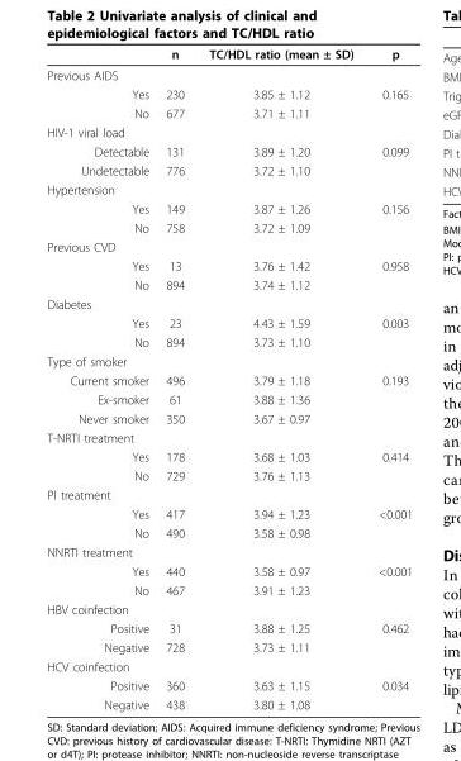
<table><thead><tr><td></td><td>n</td><td>TC/HDL ratio (mean ± SD)</td><td>p</td></tr></thead><tbody><tr><td colspan="4">Previous AIDS</td></tr><tr><td>Yes</td><td>230</td><td>3.85 ± 1.12</td><td>0.165</td></tr><tr><td>No</td><td>677</td><td>3.71 ± 1.11</td><td></td></tr><tr><td colspan="4">HIV-1 viral load</td></tr><tr><td>Detectable</td><td>131</td><td>3.89 ± 1.20</td><td>0.099</td></tr><tr><td>Undetectable</td><td>776</td><td>3.72 ± 1.10</td><td></td></tr><tr><td colspan="4">Hypertension</td></tr><tr><td>Yes</td><td>149</td><td>3.87 ± 1.26</td><td>0.156</td></tr><tr><td>No</td><td>758</td><td>3.72 ± 1.09</td><td></td></tr><tr><td colspan="4">Previous CVD</td></tr><tr><td>Yes</td><td>13</td><td>3.76 ± 1.42</td><td>0.958</td></tr><tr><td>No</td><td>894</td><td>3.74 ± 1.12</td><td></td></tr><tr><td colspan="4">Diabetes</td></tr><tr><td>Yes</td><td>23</td><td>4.43 ± 1.59</td><td>0.003</td></tr><tr><td>No</td><td>894</td><td>3.73 ± 1.10</td><td></td></tr><tr><td colspan="4">Type of smoker</td></tr><tr><td>Current smoker</td><td>496</td><td>3.79 ± 1.18</td><td>0.193</td></tr><tr><td>Ex-smoker</td><td>61</td><td>3.88 ± 1.36</td><td></td></tr><tr><td>Never smoker</td><td>350</td><td>3.67 ± 0.97</td><td></td></tr><tr><td colspan="4">T-NRTI treatment</td></tr><tr><td>Yes</td><td>178</td><td>3.68 ± 1.03</td><td>0.414</td></tr><tr><td>No</td><td>729</td><td>3.76 ± 1.13</td><td></td></tr><tr><td colspan="4">PI treatment</td></tr><tr><td>Yes</td><td>417</td><td>3.94 ± 1.23</td><td>&lt;0.001</td></tr><tr><td>No</td><td>490</td><td>3.58 ± 0.98</td><td></td></tr><tr><td colspan="4">NNRTI treatment</td></tr><tr><td>Yes</td><td>440</td><td>3.58 ± 0.97</td><td>&lt;0.001</td></tr><tr><td>No</td><td>467</td><td>3.91 ± 1.23</td><td></td></tr><tr><td colspan="4">HBV coinfection</td></tr><tr><td>Positive</td><td>31</td><td>3.88 ± 1.25</td><td>0.462</td></tr><tr><td>Negative</td><td>728</td><td>3.73 ± 1.11</td><td></td></tr><tr><td colspan="4">HCV coinfection</td></tr><tr><td>Positive</td><td>360</td><td>3.63 ± 1.15</td><td>0.034</td></tr><tr><td>Negative</td><td>438</td><td>3.80 ± 1.08</td><td></td></tr></tbody></table>